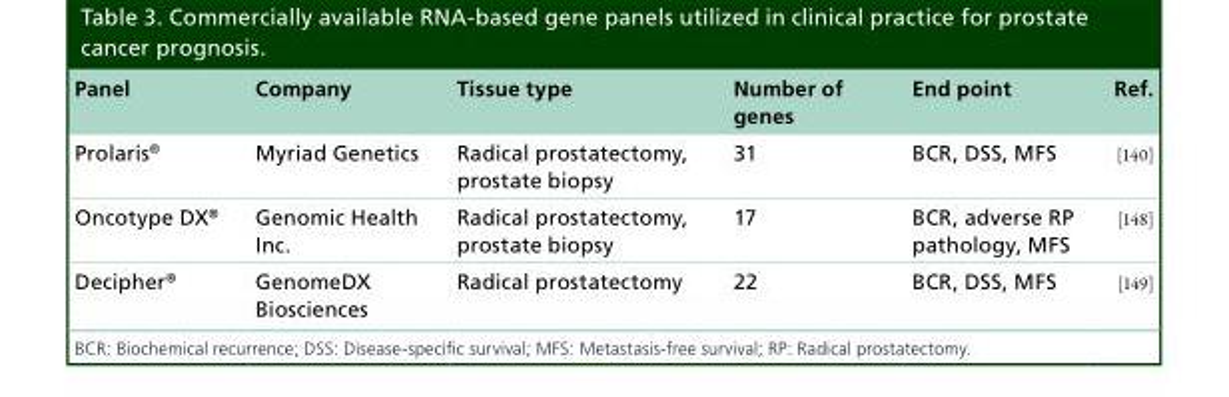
<table><thead><tr><td>Panel</td><td>Company</td><td>Tissue type</td><td>Number of genes</td><td>End point</td><td>Ref.</td></tr></thead><tbody><tr><td>Prolaris<sup>®</sup></td><td>Myriad Genetics</td><td>Radical prostatectomy, prostate biopsy</td><td>31</td><td>BCR, DSS, MFS</td><td>[140]</td></tr><tr><td>Oncotype DX<sup>®</sup></td><td>Genomic Health Inc.</td><td>Radical prostatectomy, prostate biopsy</td><td>17</td><td>BCR, adverse RP pathology, MFS</td><td>[148]</td></tr><tr><td>Decipher<sup>®</sup></td><td>GenomeDX Biosciences</td><td>Radical prostatectomy</td><td>22</td><td>BCR, DSS, MFS</td><td>[149]</td></tr></tbody></table>